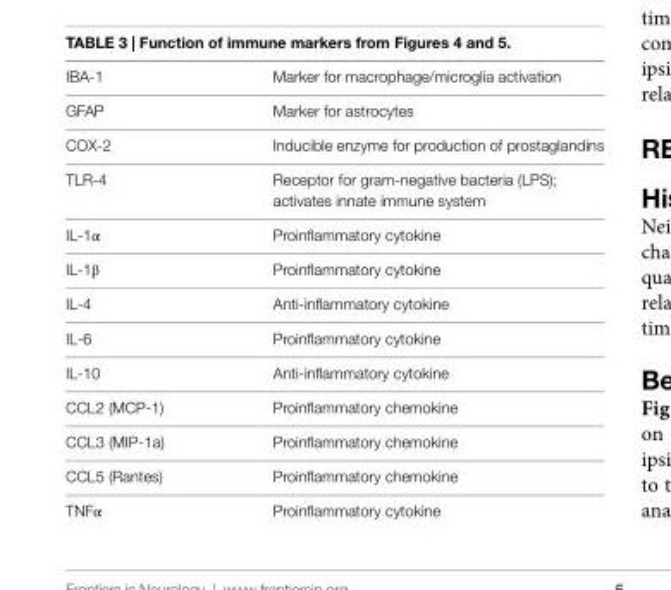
<table><tbody><tr><td>IBA-1</td><td>Marker for macrophage/microglia activation</td></tr><tr><td>GFAP</td><td>Marker for astrocytes</td></tr><tr><td>COX-2</td><td>Inducible enzyme for production of prostaglandins</td></tr><tr><td>TLR-4</td><td>Receptor for gram-negative bacteria (LPS); activates innate immune system</td></tr><tr><td>IL-1α</td><td>Proinflammatory cytokine</td></tr><tr><td>IL-1β</td><td>Proinflammatory cytokine</td></tr><tr><td>IL-4</td><td>Anti-inflammatory cytokine</td></tr><tr><td>IL-6</td><td>Proinflammatory cytokine</td></tr><tr><td>IL-10</td><td>Anti-inflammatory cytokine</td></tr><tr><td>CCL2 (MCP-1)</td><td>Proinflammatory chemokine</td></tr><tr><td>CCL3 (MIP-1a)</td><td>Proinflammatory chemokine</td></tr><tr><td>CCL5 (Rantes)</td><td>Proinflammatory chemokine</td></tr><tr><td>TNFα</td><td>Proinflammatory cytokine</td></tr></tbody></table>